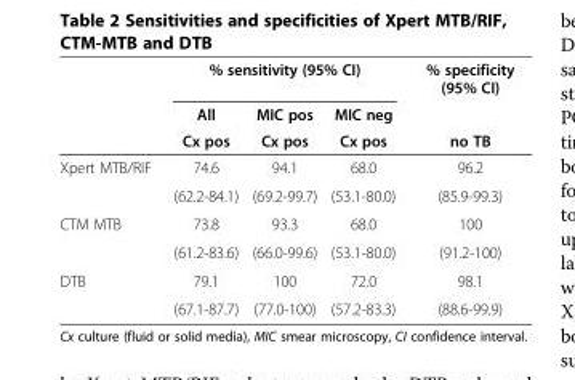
<table><thead><tr><td rowspan="3"></td><td colspan="3">% sensitivity (95% CI)</td><td rowspan="3">% specificity (95% CI) no TB</td></tr><tr><td rowspan="2">All Cx pos</td><td rowspan="2">MIC pos Cx pos</td><td rowspan="2">MIC neg Cx pos</td></tr><tr></tr></thead><tbody><tr><td rowspan="2">Xpert MTB/RIF</td><td>74.6</td><td>94.1</td><td>68.0</td><td>96.2</td></tr><tr><td>(62.2-84.1)</td><td>(69.2-99.7)</td><td>(53.1-80.0)</td><td>(85.9-99.3)</td></tr><tr><td rowspan="2">CTM MTB</td><td>73.8</td><td>93.3</td><td>68.0</td><td>100</td></tr><tr><td>(61.2-83.6)</td><td>(66.0-99.6)</td><td>(53.1-80.0)</td><td>(91.2-100)</td></tr><tr><td rowspan="2">DTB</td><td>79.1</td><td>100</td><td>72.0</td><td>98.1</td></tr><tr><td>(67.1-87.7)</td><td>(77.0-100)</td><td>(57.2-83.3)</td><td>(88.6-99.9)</td></tr></tbody></table>